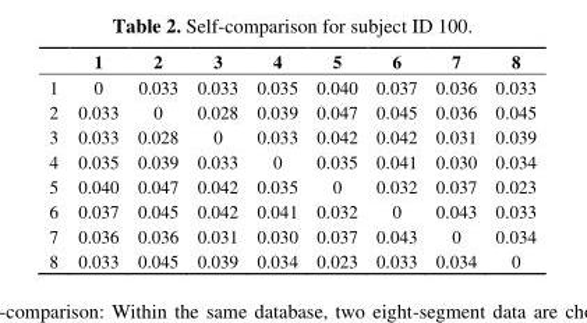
<table><thead><tr><td></td><td>1</td><td>2</td><td>3</td><td>4</td><td>5</td><td>6</td><td>7</td><td>8</td></tr></thead><tbody><tr><td>1</td><td>0</td><td>0.033</td><td>0.033</td><td>0.035</td><td>0.040</td><td>0.037</td><td>0.036</td><td>0.033</td></tr><tr><td>2</td><td>0.033</td><td>0</td><td>0.028</td><td>0.039</td><td>0.047</td><td>0.045</td><td>0.036</td><td>0.045</td></tr><tr><td>3</td><td>0.033</td><td>0.028</td><td>0</td><td>0.033</td><td>0.042</td><td>0.042</td><td>0.031</td><td>0.039</td></tr><tr><td>4</td><td>0.035</td><td>0.039</td><td>0.033</td><td>0</td><td>0.035</td><td>0.041</td><td>0.030</td><td>0.034</td></tr><tr><td>5</td><td>0.040</td><td>0.047</td><td>0.042</td><td>0.035</td><td>0</td><td>0.032</td><td>0.037</td><td>0.023</td></tr><tr><td>6</td><td>0.037</td><td>0.045</td><td>0.042</td><td>0.041</td><td>0.032</td><td>0</td><td>0.043</td><td>0.033</td></tr><tr><td>7</td><td>0.036</td><td>0.036</td><td>0.031</td><td>0.030</td><td>0.037</td><td>0.043</td><td>0</td><td>0.034</td></tr><tr><td>8</td><td>0.033</td><td>0.045</td><td>0.039</td><td>0.034</td><td>0.023</td><td>0.033</td><td>0.034</td><td>0</td></tr></tbody></table>